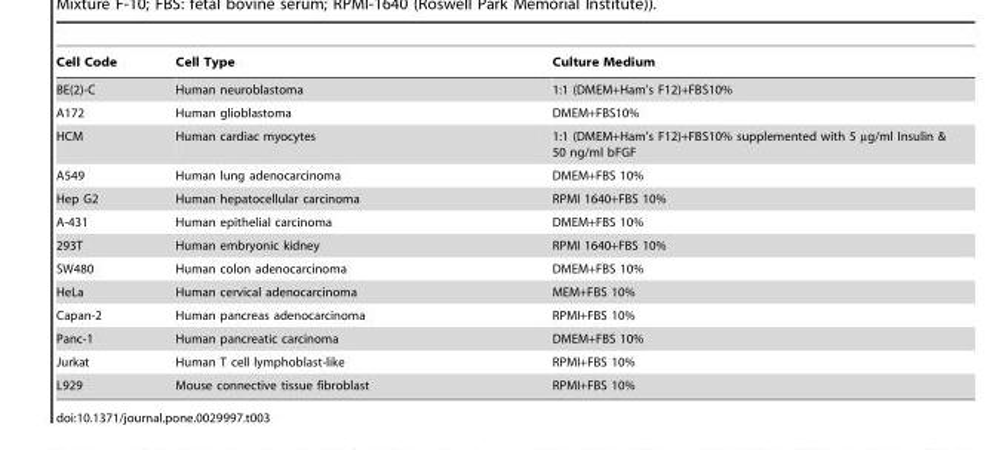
<table><thead><tr><td>Cell Code</td><td>Cell Type</td><td>Culture Medium</td></tr></thead><tbody><tr><td>BE(2)-C</td><td>Human neuroblastoma</td><td>1:1 (DMEM+Ham’s F12)+FBS10%</td></tr><tr><td>A172</td><td>Human glioblastoma</td><td>DMEM+FBS10%</td></tr><tr><td>HCM</td><td>Human cardiac myocytes</td><td>1:1 (DMEM+Ham’s F12)+FBS10% supplemented with 5 µg/ml Insulin &amp; 50 ng/ml bFGF</td></tr><tr><td>A549</td><td>Human lung adenocarcinoma</td><td>DMEM+FBS 10%</td></tr><tr><td>Hep G2</td><td>Human hepatocellular carcinoma</td><td>RPMI 1640+FBS 10%</td></tr><tr><td>A-431</td><td>Human epithelial carcinoma</td><td>DMEM+FBS 10%</td></tr><tr><td>293T</td><td>Human embryonic kidney</td><td>RPMI 1640+FBS 10%</td></tr><tr><td>SW480</td><td>Human colon adenocarcinoma</td><td>DMEM+FBS 10%</td></tr><tr><td>HeLa</td><td>Human cervical adenocarcinoma</td><td>MEM+FBS 10%</td></tr><tr><td>Capan-2</td><td>Human pancreas adenocarcinoma</td><td>RPMI+FBS 10%</td></tr><tr><td>Panc-1</td><td>Human pancreatic carcinoma</td><td>DMEM+FBS 10%</td></tr><tr><td>Jurkat</td><td>Human T cell lymphoblast-like</td><td>RPMI+FBS 10%</td></tr><tr><td>L929</td><td>Mouse connective tissue fibroblast</td><td>RPMI+FBS 10%</td></tr></tbody></table>